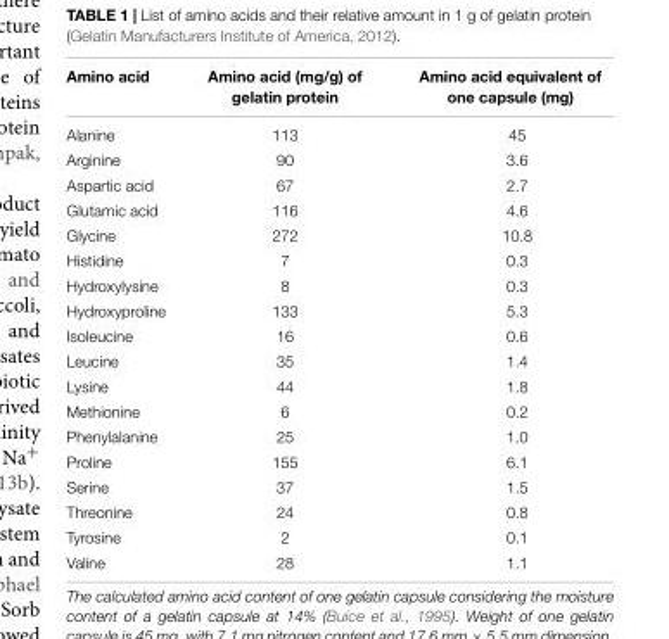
<table><thead><tr><td>Amino acid</td><td>Amino acid (mg/g) of gelatin protein</td><td>Amino acid equivalent of one capsule (mg)</td></tr></thead><tbody><tr><td>Alanine</td><td>113</td><td>45</td></tr><tr><td>Arginine</td><td>90</td><td>3.6</td></tr><tr><td>Aspartic acid</td><td>67</td><td>2.7</td></tr><tr><td>Glutamic acid</td><td>116</td><td>4.6</td></tr><tr><td>Glycine</td><td>272</td><td>10.8</td></tr><tr><td>Histidine</td><td>7</td><td>0.3</td></tr><tr><td>Hydroxylysine</td><td>8</td><td>0.3</td></tr><tr><td>Hydroxyproline</td><td>133</td><td>5.3</td></tr><tr><td>Isoleucine</td><td>16</td><td>0.6</td></tr><tr><td>Leucine</td><td>35</td><td>1.4</td></tr><tr><td>Lysine</td><td>44</td><td>1.8</td></tr><tr><td>Methionine</td><td>6</td><td>0.2</td></tr><tr><td>Phenylalanine</td><td>25</td><td>1.0</td></tr><tr><td>Proline</td><td>155</td><td>6.1</td></tr><tr><td>Serine</td><td>37</td><td>1.5</td></tr><tr><td>Threonine</td><td>24</td><td>0.8</td></tr><tr><td>Tyrosine</td><td>2</td><td>0.1</td></tr><tr><td>Valine</td><td>28</td><td>1.1</td></tr></tbody></table>